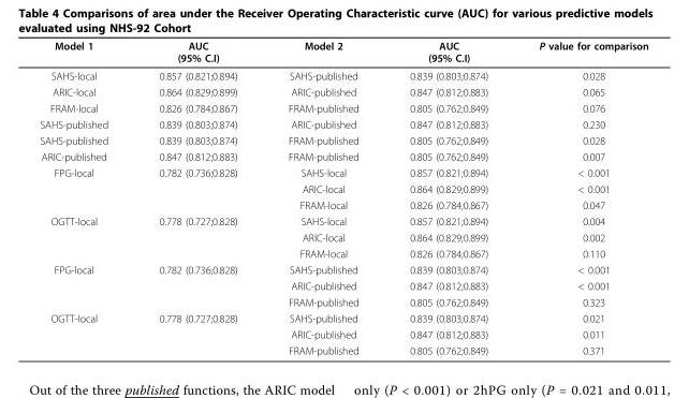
<table><thead><tr><td>Model 1</td><td>AUC (95% C.I)</td><td>Model 2</td><td>AUC (95% C.I)</td><td>P value for comparison</td></tr></thead><tbody><tr><td>SAHS-local</td><td>0.857 (0.821;0.894)</td><td>SAHS-published</td><td>0.839 (0.803;0.874)</td><td>0.028</td></tr><tr><td>ARIC-local</td><td>0.864 (0.829;0.899)</td><td>ARIC-published</td><td>0.847 (0.812;0.883)</td><td>0.065</td></tr><tr><td>FRAM-local</td><td>0.826 (0.784;0.867)</td><td>FRAM-published</td><td>0.805 (0.762;0.849)</td><td>0.076</td></tr><tr><td>SAHS-published</td><td>0.839 (0.803;0.874)</td><td>ARIC-published</td><td>0.847 (0.812;0.883)</td><td>0.230</td></tr><tr><td>SAHS-published</td><td>0.839 (0.803;0.874)</td><td>FRAM-published</td><td>0.805 (0.762;0.849)</td><td>0.028</td></tr><tr><td>ARIC-published</td><td>0.847 (0.812;0.883)</td><td>FRAM-published</td><td>0.805 (0.762;0.849)</td><td>0.007</td></tr><tr><td rowspan="3">FPG-local</td><td>0.782 (0.736;0.828)</td><td>SAHS-local</td><td>0.857 (0.821;0.894)</td><td>&lt; 0.001</td></tr><tr><td></td><td>ARIC-local</td><td>0.864 (0.829;0.899)</td><td>&lt; 0.001</td></tr><tr><td></td><td>FRAM-local</td><td>0.826 (0.784;0.867)</td><td>0.047</td></tr><tr><td rowspan="3">OGTT-local</td><td>0.778 (0.727;0.828)</td><td>SAHS-local</td><td>0.857 (0.821;0.894)</td><td>0.004</td></tr><tr><td></td><td>ARIC-local</td><td>0.864 (0.829;0.899)</td><td>0.002</td></tr><tr><td></td><td>FRAM-local</td><td>0.826 (0.784;0.867)</td><td>0.110</td></tr><tr><td rowspan="3">FPG-local</td><td>0.782 (0.736;0.828)</td><td>SAHS-published</td><td>0.839 (0.803;0.874)</td><td>&lt; 0.001</td></tr><tr><td></td><td>ARIC-published</td><td>0.847 (0.812;0.883)</td><td>&lt; 0.001</td></tr><tr><td></td><td>FRAM-published</td><td>0.805 (0.762;0.849)</td><td>0.323</td></tr><tr><td rowspan="3">OGTT-local</td><td>0.778 (0.727;0.828)</td><td>SAHS-published</td><td>0.839 (0.803;0.874)</td><td>0.021</td></tr><tr><td></td><td>ARIC-published</td><td>0.847 (0.812;0.883)</td><td>0.011</td></tr><tr><td></td><td>FRAM-published</td><td>0.805 (0.762;0.849)</td><td>0.371</td></tr></tbody></table>